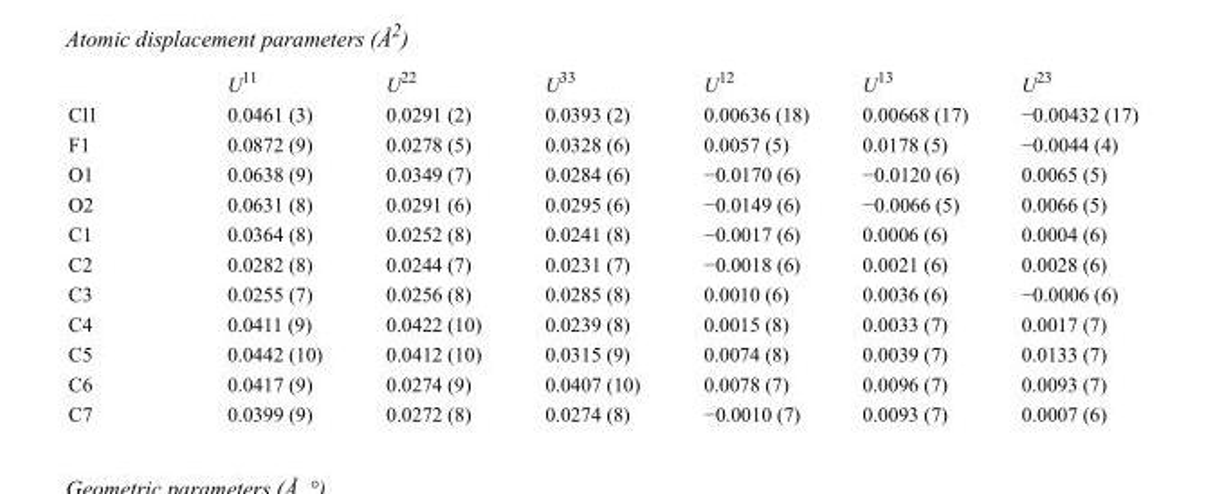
<table><thead><tr><td></td><td>U<sup>11</sup></td><td>U<sup>22</sup></td><td>U<sup>33</sup></td><td>U<sup>12</sup></td><td>U<sup>13</sup></td><td>U<sup>23</sup></td></tr></thead><tbody><tr><td>Cl1</td><td>0.0461 (3)</td><td>0.0291 (2)</td><td>0.0393 (2)</td><td>0.00636 (18)</td><td>0.00668 (17)</td><td>−0.00432 (17)</td></tr><tr><td>F1</td><td>0.0872 (9)</td><td>0.0278 (5)</td><td>0.0328 (6)</td><td>0.0057 (5)</td><td>0.0178 (5)</td><td>−0.0044 (4)</td></tr><tr><td>O1</td><td>0.0638 (9)</td><td>0.0349 (7)</td><td>0.0284 (6)</td><td>−0.0170 (6)</td><td>−0.0120 (6)</td><td>0.0065 (5)</td></tr><tr><td>O2</td><td>0.0631 (8)</td><td>0.0291 (6)</td><td>0.0295 (6)</td><td>−0.0149 (6)</td><td>−0.0066 (5)</td><td>0.0066 (5)</td></tr><tr><td>C1</td><td>0.0364 (8)</td><td>0.0252 (8)</td><td>0.0241 (8)</td><td>−0.0017 (6)</td><td>0.0006 (6)</td><td>0.0004 (6)</td></tr><tr><td>C2</td><td>0.0282 (8)</td><td>0.0244 (7)</td><td>0.0231 (7)</td><td>−0.0018 (6)</td><td>0.0021 (6)</td><td>0.0028 (6)</td></tr><tr><td>C3</td><td>0.0255 (7)</td><td>0.0256 (8)</td><td>0.0285 (8)</td><td>0.0010 (6)</td><td>0.0036 (6)</td><td>−0.0006 (6)</td></tr><tr><td>C4</td><td>0.0411 (9)</td><td>0.0422 (10)</td><td>0.0239 (8)</td><td>0.0015 (8)</td><td>0.0033 (7)</td><td>0.0017 (7)</td></tr><tr><td>C5</td><td>0.0442 (10)</td><td>0.0412 (10)</td><td>0.0315 (9)</td><td>0.0074 (8)</td><td>0.0039 (7)</td><td>0.0133 (7)</td></tr><tr><td>C6</td><td>0.0417 (9)</td><td>0.0274 (9)</td><td>0.0407 (10)</td><td>0.0078 (7)</td><td>0.0096 (7)</td><td>0.0093 (7)</td></tr><tr><td>C7</td><td>0.0399 (9)</td><td>0.0272 (8)</td><td>0.0274 (8)</td><td>−0.0010 (7)</td><td>0.0093 (7)</td><td>0.0007 (6)</td></tr></tbody></table>